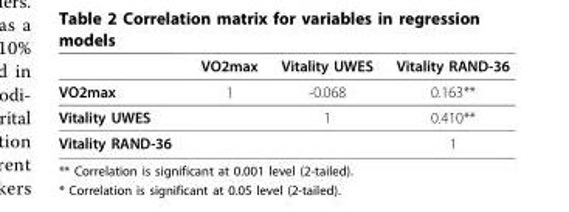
<table><thead><tr><td></td><td>VO2max</td><td>Vitality UWES</td><td>Vitality RAND-36</td></tr></thead><tbody><tr><td>VO2max</td><td>1</td><td>-0.068</td><td>0.163**</td></tr><tr><td>Vitality UWES</td><td></td><td>1</td><td>0.410**</td></tr><tr><td>Vitality RAND-36</td><td></td><td></td><td>1</td></tr></tbody></table>